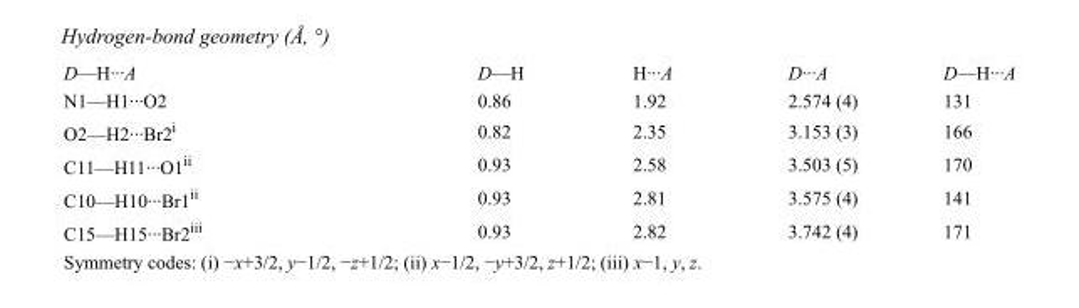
<table><tbody><tr><td>D—H···A</td><td>D—H</td><td>H···A</td><td>D···A</td><td>D—H···A</td></tr><tr><td>N1—H1···O2</td><td>0.86</td><td>1.92</td><td>2.574 (4)</td><td>131</td></tr><tr><td>O2—H2···Br2<sup>i</sup></td><td>0.82</td><td>2.35</td><td>3.153 (3)</td><td>166</td></tr><tr><td>C11—H11···O1<sup>ii</sup></td><td>0.93</td><td>2.58</td><td>3.503 (5)</td><td>170</td></tr><tr><td>C10—H10···Br1<sup>ii</sup></td><td>0.93</td><td>2.81</td><td>3.575 (4)</td><td>141</td></tr><tr><td>C15—H15···Br2<sup>iii</sup></td><td>0.93</td><td>2.82</td><td>3.742 (4)</td><td>171</td></tr></tbody></table>